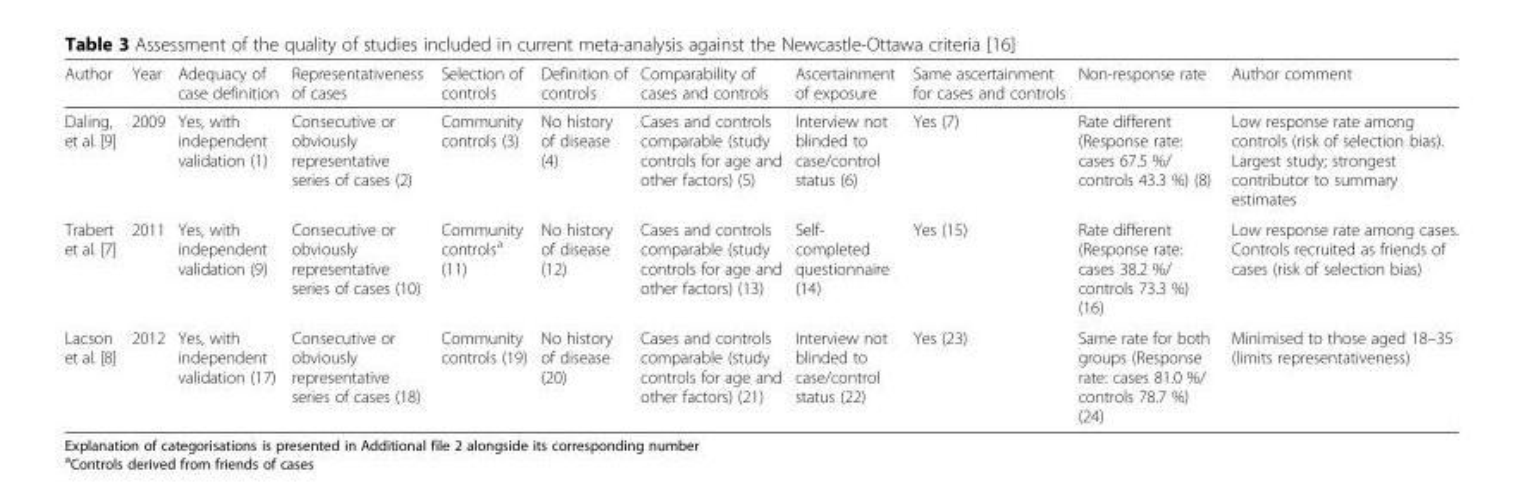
<table><thead><tr><td>Author</td><td>Year</td><td>Adequacy of case definition</td><td>Representativeness of cases</td><td>Selection of controls</td><td>Definition of controls</td><td>Comparability of cases and controls</td><td>Ascertainment of exposure</td><td>Same ascertainment for cases and controls</td><td>Non-response rate</td><td>Author comment</td></tr></thead><tbody><tr><td>Daling, et al. [9]</td><td>2009</td><td>Yes, with independent validation (1)</td><td>Consecutive or obviously representative series of cases (2)</td><td>Community controls (3)</td><td>No history of disease (4)</td><td>Cases and controls comparable (study controls for age and other factors) (5)</td><td>Interview not blinded to case/control status (6)</td><td>Yes (7)</td><td>Rate different (Response rate: cases 67.5 %/ controls 43.3 %) (8)</td><td>Low response rate among controls (risk of selection bias). Largest study; strongest contributor to summary estimates</td></tr><tr><td>Trabert et al. [7]</td><td>2011</td><td>Yes, with independent validation (9)</td><td>Consecutive or obviously representative series of cases (10)</td><td>Community controls<sup>a</sup> (11)</td><td>No history of disease (12)</td><td>Cases and controls comparable (study controls for age and other factors) (13)</td><td>Self- completed questionnaire (14)</td><td>Yes (15)</td><td>Rate different (Response rate: cases 38.2 %/ controls 73.3 %) (16)</td><td>Low response rate among cases. Controls recruited as friends of cases (risk of selection bias)</td></tr><tr><td>Lacson et al. [8]</td><td>2012</td><td>Yes, with independent validation (17)</td><td>Consecutive or obviously representative series of cases (18)</td><td>Community controls (19)</td><td>No history of disease (20)</td><td>Cases and controls comparable (study controls for age and other factors) (21)</td><td>Interview not blinded to case/control status (22)</td><td>Yes (23)</td><td>Same rate for both groups (Response rate: cases 81.0 %/ controls 78.7 %) (24)</td><td>Minimised to those aged 18–35 (limits representativeness)</td></tr></tbody></table>